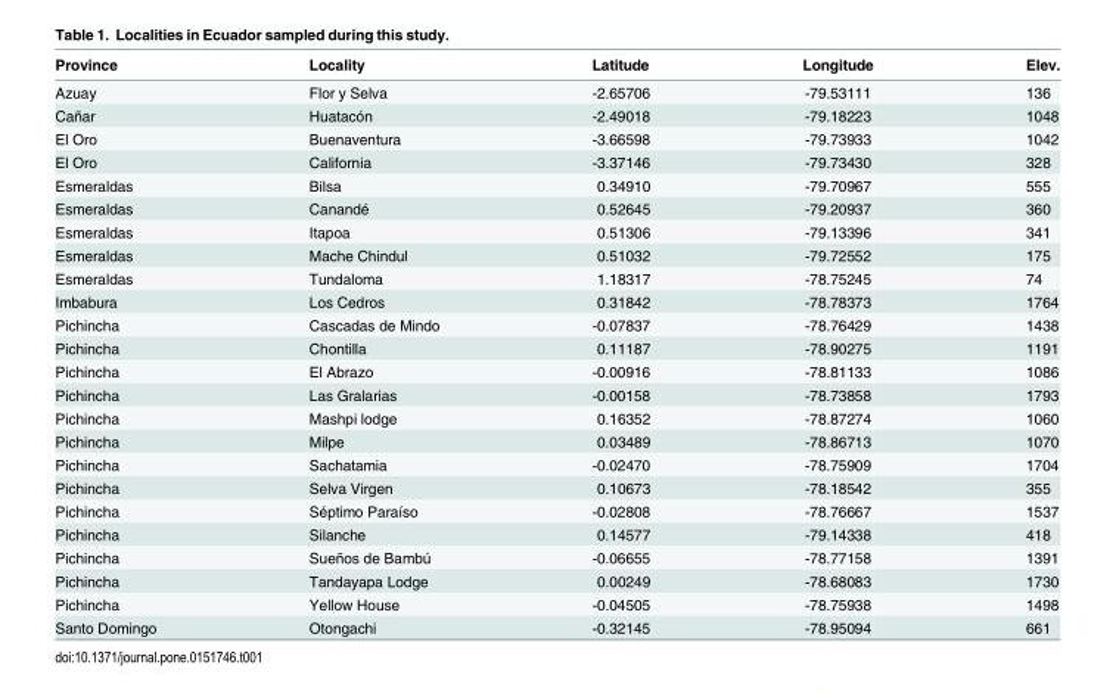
<table><thead><tr><td>Province</td><td>Locality</td><td>Latitude</td><td>Longitude</td><td>Elev.</td></tr></thead><tbody><tr><td>Azuay</td><td>Flor y Selva</td><td>-2.65706</td><td>-79.53111</td><td>136</td></tr><tr><td>Cañar</td><td>Huatacón</td><td>-2.49018</td><td>-79.18223</td><td>1048</td></tr><tr><td>El Oro</td><td>Buenaventura</td><td>-3.66598</td><td>-79.73933</td><td>1042</td></tr><tr><td>El Oro</td><td>California</td><td>-3.37146</td><td>-79.73430</td><td>328</td></tr><tr><td>Esmeraldas</td><td>Bilsa</td><td>0.34910</td><td>-79.70967</td><td>555</td></tr><tr><td>Esmeraldas</td><td>Canandé</td><td>0.52645</td><td>-79.20937</td><td>360</td></tr><tr><td>Esmeraldas</td><td>Itapoa</td><td>0.51306</td><td>-79.13396</td><td>341</td></tr><tr><td>Esmeraldas</td><td>Mache Chindul</td><td>0.51032</td><td>-79.72552</td><td>175</td></tr><tr><td>Esmeraldas</td><td>Tundaloma</td><td>1.18317</td><td>-78.75245</td><td>74</td></tr><tr><td>Imbabura</td><td>Los Cedros</td><td>0.31842</td><td>-78.78373</td><td>1764</td></tr><tr><td>Pichincha</td><td>Cascadas de Mindo</td><td>-0.07837</td><td>-78.76429</td><td>1438</td></tr><tr><td>Pichincha</td><td>Chontilla</td><td>0.11187</td><td>-78.90275</td><td>1191</td></tr><tr><td>Pichincha</td><td>El Abrazo</td><td>-0.00916</td><td>-78.81133</td><td>1086</td></tr><tr><td>Pichincha</td><td>Las Gralarias</td><td>-0.00158</td><td>-78.73858</td><td>1793</td></tr><tr><td>Pichincha</td><td>Mashpi lodge</td><td>0.16352</td><td>-78.87274</td><td>1060</td></tr><tr><td>Pichincha</td><td>Milpe</td><td>0.03489</td><td>-78.86713</td><td>1070</td></tr><tr><td>Pichincha</td><td>Sachatamia</td><td>-0.02470</td><td>-78.75909</td><td>1704</td></tr><tr><td>Pichincha</td><td>Selva Virgen</td><td>0.10673</td><td>-78.18542</td><td>355</td></tr><tr><td>Pichincha</td><td>Séptimo Paraíso</td><td>-0.02808</td><td>-78.76667</td><td>1537</td></tr><tr><td>Pichincha</td><td>Silanche</td><td>0.14577</td><td>-79.14338</td><td>418</td></tr><tr><td>Pichincha</td><td>Sueños de Bambú</td><td>-0.06655</td><td>-78.77158</td><td>1391</td></tr><tr><td>Pichincha</td><td>Tandayapa Lodge</td><td>0.00249</td><td>-78.68083</td><td>1730</td></tr><tr><td>Pichincha</td><td>Yellow House</td><td>-0.04505</td><td>-78.75938</td><td>1498</td></tr><tr><td>Santo Domingo</td><td>Otongachi</td><td>-0.32145</td><td>-78.95094</td><td>661</td></tr></tbody></table>